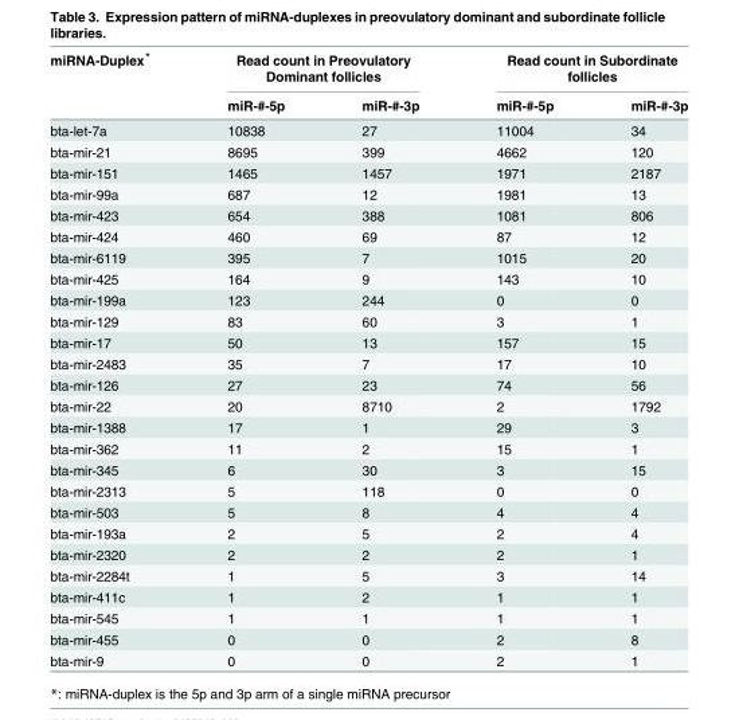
<table><thead><tr><td rowspan="2">miRNA-Duplex*</td><td colspan="2">Read count in Preovulatory Dominant follicles</td><td colspan="2">Read count in Subordinate follicles</td></tr><tr><td>miR-#-5p</td><td>miR-#-3p</td><td>miR-#-5p</td><td>miR-#-3p</td></tr></thead><tbody><tr><td>bta-let-7a</td><td>10838</td><td>27</td><td>11004</td><td>34</td></tr><tr><td>bta-mir-21</td><td>8695</td><td>399</td><td>4662</td><td>120</td></tr><tr><td>bta-mir-151</td><td>1465</td><td>1457</td><td>1971</td><td>2187</td></tr><tr><td>bta-mir-99a</td><td>687</td><td>12</td><td>1981</td><td>13</td></tr><tr><td>bta-mir-423</td><td>654</td><td>388</td><td>1081</td><td>806</td></tr><tr><td>bta-mir-424</td><td>460</td><td>69</td><td>87</td><td>12</td></tr><tr><td>bta-mir-6119</td><td>395</td><td>7</td><td>1015</td><td>20</td></tr><tr><td>bta-mir-425</td><td>164</td><td>9</td><td>143</td><td>10</td></tr><tr><td>bta-mir-199a</td><td>123</td><td>244</td><td>0</td><td>0</td></tr><tr><td>bta-mir-129</td><td>83</td><td>60</td><td>3</td><td>1</td></tr><tr><td>bta-mir-17</td><td>50</td><td>13</td><td>157</td><td>15</td></tr><tr><td>bta-mir-2483</td><td>35</td><td>7</td><td>17</td><td>10</td></tr><tr><td>bta-mir-126</td><td>27</td><td>23</td><td>74</td><td>56</td></tr><tr><td>bta-mir-22</td><td>20</td><td>8710</td><td>2</td><td>1792</td></tr><tr><td>bta-mir-1388</td><td>17</td><td>1</td><td>29</td><td>3</td></tr><tr><td>bta-mir-362</td><td>11</td><td>2</td><td>15</td><td>1</td></tr><tr><td>bta-mir-345</td><td>6</td><td>30</td><td>3</td><td>15</td></tr><tr><td>bta-mir-2313</td><td>5</td><td>118</td><td>0</td><td>0</td></tr><tr><td>bta-mir-503</td><td>5</td><td>8</td><td>4</td><td>4</td></tr><tr><td>bta-mir-193a</td><td>2</td><td>5</td><td>2</td><td>4</td></tr><tr><td>bta-mir-2320</td><td>2</td><td>2</td><td>2</td><td>1</td></tr><tr><td>bta-mir-2284t</td><td>1</td><td>5</td><td>3</td><td>14</td></tr><tr><td>bta-mir-411c</td><td>1</td><td>2</td><td>1</td><td>1</td></tr><tr><td>bta-mir-545</td><td>1</td><td>1</td><td>1</td><td>1</td></tr><tr><td>bta-mir-455</td><td>0</td><td>0</td><td>2</td><td>8</td></tr><tr><td>bta-mir-9</td><td>0</td><td>0</td><td>2</td><td>1</td></tr></tbody></table>